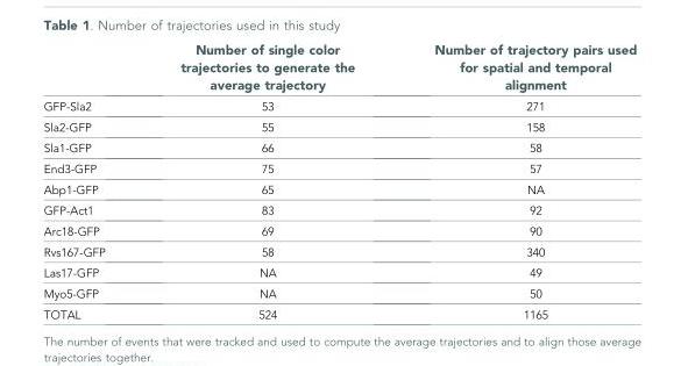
<table><thead><tr><td></td><td>Number of single color trajectories to generate the average trajectory</td><td>Number of trajectory pairs used for spatial and temporal alignment</td></tr></thead><tbody><tr><td>GFP-Sla2</td><td>53</td><td>271</td></tr><tr><td>Sla2-GFP</td><td>55</td><td>158</td></tr><tr><td>Sla1-GFP</td><td>66</td><td>58</td></tr><tr><td>End3-GFP</td><td>75</td><td>57</td></tr><tr><td>Abp1-GFP</td><td>65</td><td>NA</td></tr><tr><td>GFP-Act1</td><td>83</td><td>92</td></tr><tr><td>Arc18-GFP</td><td>69</td><td>90</td></tr><tr><td>Rvs167-GFP</td><td>58</td><td>340</td></tr><tr><td>Las17-GFP</td><td>NA</td><td>49</td></tr><tr><td>Myo5-GFP</td><td>NA</td><td>50</td></tr><tr><td>TOTAL</td><td>524</td><td>1165</td></tr></tbody></table>